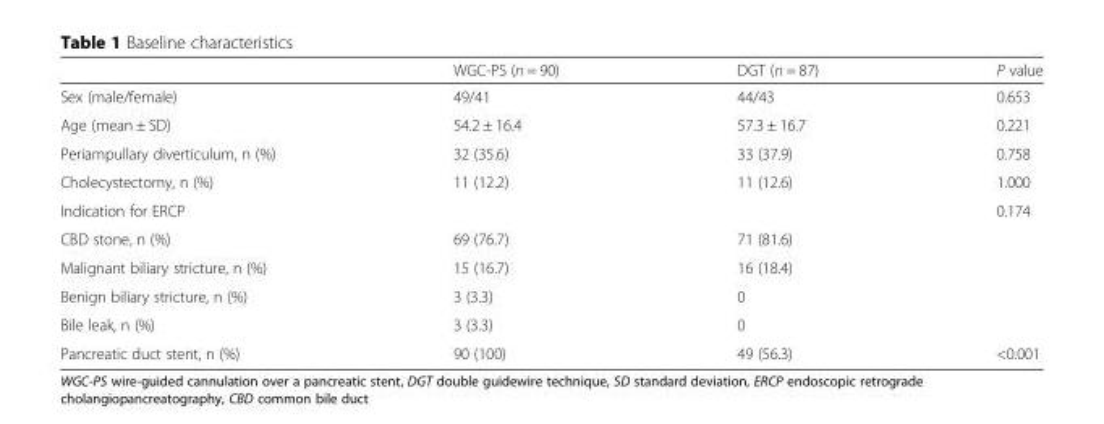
<table><thead><tr><td></td><td>WGC-PS (n = 90)</td><td>DGT (n = 87)</td><td>P value</td></tr></thead><tbody><tr><td>Sex (male/female)</td><td>49/41</td><td>44/43</td><td>0.653</td></tr><tr><td>Age (mean ± SD)</td><td>54.2 ± 16.4</td><td>57.3 ± 16.7</td><td>0.221</td></tr><tr><td>Periampullary diverticulum, n (%)</td><td>32 (35.6)</td><td>33 (37.9)</td><td>0.758</td></tr><tr><td>Cholecystectomy, n (%)</td><td>11 (12.2)</td><td>11 (12.6)</td><td>1.000</td></tr><tr><td>Indication for ERCP</td><td></td><td></td><td>0.174</td></tr><tr><td>CBD stone, n (%)</td><td>69 (76.7)</td><td>71 (81.6)</td><td></td></tr><tr><td>Malignant biliary stricture, n (%)</td><td>15 (16.7)</td><td>16 (18.4)</td><td></td></tr><tr><td>Benign biliary stricture, n (%)</td><td>3 (3.3)</td><td>0</td><td></td></tr><tr><td>Bile leak, n (%)</td><td>3 (3.3)</td><td>0</td><td></td></tr><tr><td>Pancreatic duct stent, n (%)</td><td>90 (100)</td><td>49 (56.3)</td><td>&lt;0.001</td></tr></tbody></table>